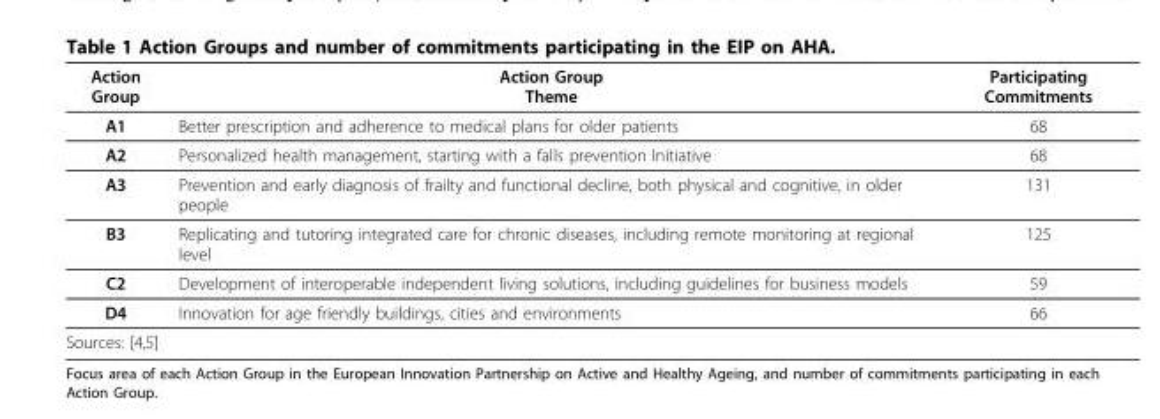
<table><thead><tr><td>Action Group</td><td>Action Group Theme</td><td>Participating Commitments</td></tr></thead><tbody><tr><td>A1</td><td>Better prescription and adherence to medical plans for older patients</td><td>68</td></tr><tr><td>A2</td><td>Personalized health management, starting with a falls prevention Initiative</td><td>68</td></tr><tr><td>A3</td><td>Prevention and early diagnosis of frailty and functional decline, both physical and cognitive, in older people</td><td>131</td></tr><tr><td>B3</td><td>Replicating and tutoring integrated care for chronic diseases, including remote monitoring at regional level</td><td>125</td></tr><tr><td>C2</td><td>Development of interoperable independent living solutions, including guidelines for business models</td><td>59</td></tr><tr><td>D4</td><td>Innovation for age friendly buildings, cities and environments</td><td>66</td></tr><tr><td colspan="3">Sources: [4,5]</td></tr></tbody></table>